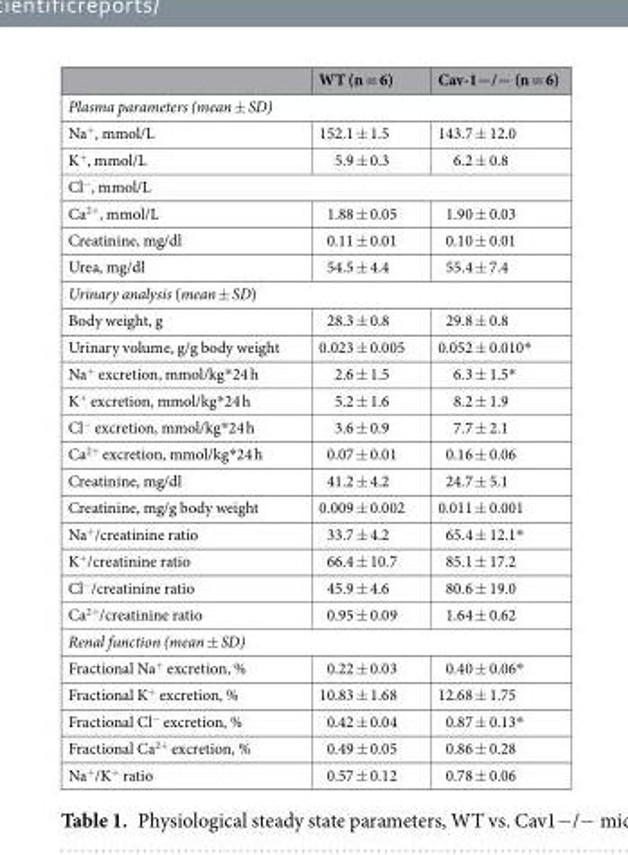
<table><thead><tr><td></td><td>WT (n = 6)</td><td>Cav-1−/− (n = 6)</td></tr></thead><tbody><tr><td colspan="3">Plasma parameters (mean ± SD)</td></tr><tr><td>Na<sup>+</sup>, mmol/L</td><td>152.1 ± 1.5</td><td>143.7 ± 12.0</td></tr><tr><td>K<sup>+</sup>, mmol/L</td><td>5.9 ± 0.3</td><td>6.2 ± 0.8</td></tr><tr><td colspan="3">Cl<sup>−</sup>, mmol/L</td></tr><tr><td>Ca<sup>2+</sup>, mmol/L</td><td>1.88 ± 0.05</td><td>1.90 ± 0.03</td></tr><tr><td>Creatinine, mg/dl</td><td>0.11 ± 0.01</td><td>0.10 ± 0.01</td></tr><tr><td>Urea, mg/dl</td><td>54.5 ± 4.4</td><td>55.4 ± 7.4</td></tr><tr><td colspan="3">Urinary analysis (mean ± SD)</td></tr><tr><td>Body weight, g</td><td>28.3 ± 0.8</td><td>29.8 ± 0.8</td></tr><tr><td>Urinary volume, g/g body weight</td><td>0.023 ± 0.005</td><td>0.052 ± 0.010*</td></tr><tr><td>Na<sup>+</sup> excretion, mmol/kg*24 h</td><td>2.6 ± 1.5</td><td>6.3 ± 1.5*</td></tr><tr><td>K<sup>+</sup> excretion, mmol/kg*24 h</td><td>5.2 ± 1.6</td><td>8.2 ± 1.9</td></tr><tr><td>Cl<sup>−</sup> excretion, mmol/kg*24 h</td><td>3.6 ± 0.9</td><td>7.7 ± 2.1</td></tr><tr><td>Ca<sup>2+</sup> excretion, mmol/kg*24 h</td><td>0.07 ± 0.01</td><td>0.16 ± 0.06</td></tr><tr><td>Creatinine, mg/dl</td><td>41.2 ± 4.2</td><td>24.7 ± 5.1</td></tr><tr><td>Creatinine, mg/g body weight</td><td>0.009 ± 0.002</td><td>0.011 ± 0.001</td></tr><tr><td>Na<sup>+</sup>/creatinine ratio</td><td>33.7 ± 4.2</td><td>65.4 ± 12.1*</td></tr><tr><td>K<sup>+</sup>/creatinine ratio</td><td>66.4 ± 10.7</td><td>85.1 ± 17.2</td></tr><tr><td>Cl<sup>−</sup>/creatinine ratio</td><td>45.9 ± 4.6</td><td>80.6 ± 19.0</td></tr><tr><td>Ca<sup>2+</sup>/creatinine ratio</td><td>0.95 ± 0.09</td><td>1.64 ± 0.62</td></tr><tr><td colspan="3">Renal function (mean ± SD)</td></tr><tr><td>Fractional Na<sup>+</sup> excretion, %</td><td>0.22 ± 0.03</td><td>0.40 ± 0.06*</td></tr><tr><td>Fractional K<sup>+</sup> excretion, %</td><td>10.83 ± 1.68</td><td>12.68 ± 1.75</td></tr><tr><td>Fractional Cl<sup>−</sup> excretion, %</td><td>0.42 ± 0.04</td><td>0.87 ± 0.13*</td></tr><tr><td>Fractional Ca<sup>2+</sup> excretion, %</td><td>0.49 ± 0.05</td><td>0.86 ± 0.28</td></tr><tr><td>Na<sup>+</sup>/K<sup>+</sup> ratio</td><td>0.57 ± 0.12</td><td>0.78 ± 0.06</td></tr></tbody></table>